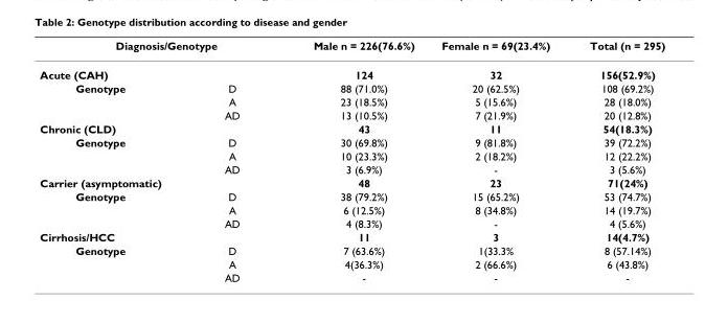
<table><thead><tr><td rowspan="2" colspan="2">Diagnosis/Genotype Acute (CAH)</td><td rowspan="3">Male n = 226(76.6%) 124 88 (71.0%)</td><td rowspan="3">Female n = 69(23.4%) 32 20 (62.5%)</td><td rowspan="3">Total (n = 295) 156(52.9%) 108 (69.2%)</td></tr><tr></tr><tr><td>Genotype</td><td>D</td></tr></thead><tbody><tr><td></td><td>A</td><td>23 (18.5%)</td><td>5 (15.6%)</td><td>28 (18.0%)</td></tr><tr><td></td><td>AD</td><td>13 (10.5%)</td><td>7 (21.9%)</td><td>20 (12.8%)</td></tr><tr><td colspan="2">Chronic (CLD)</td><td>43</td><td>11</td><td>54(18.3%)</td></tr><tr><td rowspan="3">Genotype</td><td>D</td><td>30 (69.8%)</td><td>9 (81.8%)</td><td>39 (72.2%)</td></tr><tr><td>A</td><td>10 (23.3%)</td><td>2 (18.2%)</td><td>12 (22.2%)</td></tr><tr><td>AD</td><td>3 (6.9%)</td><td>-</td><td>3 (5.6%)</td></tr><tr><td colspan="2">Carrier (asymptomatic)</td><td>48</td><td>23</td><td>71(24%)</td></tr><tr><td rowspan="3">Genotype</td><td>D</td><td>38 (79.2%)</td><td>15 (65.2%)</td><td>53 (74.7%)</td></tr><tr><td>A</td><td>6 (12.5%)</td><td>8 (34.8%)</td><td>14 (19.7%)</td></tr><tr><td>AD</td><td>4 (8.3%)</td><td>-</td><td>4 (5.6%)</td></tr><tr><td colspan="2">Cirrhosis/HCC</td><td>11</td><td>3</td><td>14(4.7%)</td></tr><tr><td rowspan="3">Genotype</td><td>D</td><td>7 (63.6%)</td><td>1(33.3%</td><td>8 (57.14%)</td></tr><tr><td>A</td><td>4(36.3%)</td><td>2 (66.6%)</td><td>6 (43.8%)</td></tr><tr><td>AD</td><td>-</td><td>-</td><td>-</td></tr></tbody></table>